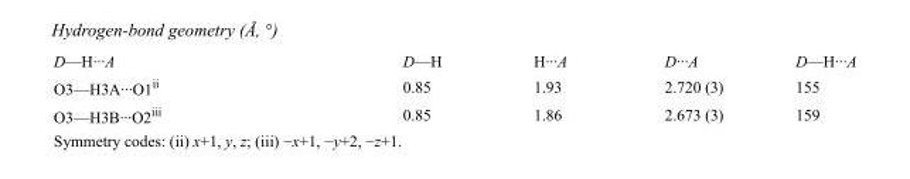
<table><tbody><tr><td>D—H···A</td><td>D—H</td><td>H···A</td><td>D···A</td><td>D—H···A</td></tr><tr><td>O3—H3A···O1<sup>ii</sup></td><td>0.85</td><td>1.93</td><td>2.720 (3)</td><td>155</td></tr><tr><td>O3—H3B···O2<sup>iii</sup></td><td>0.85</td><td>1.86</td><td>2.673 (3)</td><td>159</td></tr></tbody></table>